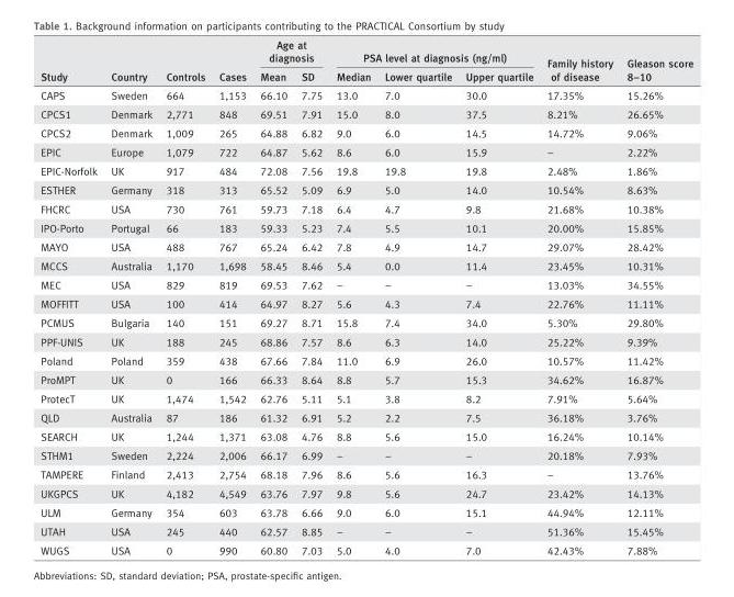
<table><thead><tr><td rowspan="2">Study</td><td rowspan="2">Country</td><td rowspan="2">Controls</td><td rowspan="2">Cases</td><td colspan="2">Age at diagnosis</td><td colspan="3">PSA level at diagnosis (ng/ml)</td><td rowspan="2">Family history of disease</td><td rowspan="2">Gleason score 8–10</td></tr><tr><td>Mean</td><td>SD</td><td>Median</td><td>Lower quartile</td><td>Upper quartile</td></tr></thead><tbody><tr><td>CAPS</td><td>Sweden</td><td>664</td><td>1,153</td><td>66.10</td><td>7.75</td><td>13.0</td><td>7.0</td><td>30.0</td><td>17.35%</td><td>15.26%</td></tr><tr><td>CPCS1</td><td>Denmark</td><td>2,771</td><td>848</td><td>69.51</td><td>7.91</td><td>15.0</td><td>8.0</td><td>37.5</td><td>8.21%</td><td>26.65%</td></tr><tr><td>CPCS2</td><td>Denmark</td><td>1,009</td><td>265</td><td>64.88</td><td>6.82</td><td>9.0</td><td>6.0</td><td>14.5</td><td>14.72%</td><td>9.06%</td></tr><tr><td>EPIC</td><td>Europe</td><td>1,079</td><td>722</td><td>64.87</td><td>5.62</td><td>8.6</td><td>6.0</td><td>15.9</td><td>–</td><td>2.22%</td></tr><tr><td>EPIC-Norfolk</td><td>UK</td><td>917</td><td>484</td><td>72.08</td><td>7.56</td><td>19.8</td><td>19.8</td><td>19.8</td><td>2.48%</td><td>1.86%</td></tr><tr><td>ESTHER</td><td>Germany</td><td>318</td><td>313</td><td>65.52</td><td>5.09</td><td>6.9</td><td>5.0</td><td>14.0</td><td>10.54%</td><td>8.63%</td></tr><tr><td>FHCRC</td><td>USA</td><td>730</td><td>761</td><td>59.73</td><td>7.18</td><td>6.4</td><td>4.7</td><td>9.8</td><td>21.68%</td><td>10.38%</td></tr><tr><td>IPO-Porto</td><td>Portugal</td><td>66</td><td>183</td><td>59.33</td><td>5.23</td><td>7.4</td><td>5.5</td><td>10.1</td><td>20.00%</td><td>15.85%</td></tr><tr><td>MAYO</td><td>USA</td><td>488</td><td>767</td><td>65.24</td><td>6.42</td><td>7.8</td><td>4.9</td><td>14.7</td><td>29.07%</td><td>28.42%</td></tr><tr><td>MCCS</td><td>Australia</td><td>1,170</td><td>1,698</td><td>58.45</td><td>8.46</td><td>5.4</td><td>0.0</td><td>11.4</td><td>23.45%</td><td>10.31%</td></tr><tr><td>MEC</td><td>USA</td><td>829</td><td>819</td><td>69.53</td><td>7.62</td><td>–</td><td>–</td><td>–</td><td>13.03%</td><td>34.55%</td></tr><tr><td>MOFFITT</td><td>USA</td><td>100</td><td>414</td><td>64.97</td><td>8.27</td><td>5.6</td><td>4.3</td><td>7.4</td><td>22.76%</td><td>11.11%</td></tr><tr><td>PCMUS</td><td>Bulgaria</td><td>140</td><td>151</td><td>69.27</td><td>8.71</td><td>15.8</td><td>7.4</td><td>34.0</td><td>5.30%</td><td>29.80%</td></tr><tr><td>PPF-UNIS</td><td>UK</td><td>188</td><td>245</td><td>68.86</td><td>7.57</td><td>8.6</td><td>6.3</td><td>14.0</td><td>25.22%</td><td>9.39%</td></tr><tr><td>Poland</td><td>Poland</td><td>359</td><td>438</td><td>67.66</td><td>7.84</td><td>11.0</td><td>6.9</td><td>26.0</td><td>10.57%</td><td>11.42%</td></tr><tr><td>ProMPT</td><td>UK</td><td>0</td><td>166</td><td>66.33</td><td>8.64</td><td>8.8</td><td>5.7</td><td>15.3</td><td>34.62%</td><td>16.87%</td></tr><tr><td>ProtecT</td><td>UK</td><td>1,474</td><td>1,542</td><td>62.76</td><td>5.11</td><td>5.1</td><td>3.8</td><td>8.2</td><td>7.91%</td><td>5.64%</td></tr><tr><td>QLD</td><td>Australia</td><td>87</td><td>186</td><td>61.32</td><td>6.91</td><td>5.2</td><td>2.2</td><td>7.5</td><td>36.18%</td><td>3.76%</td></tr><tr><td>SEARCH</td><td>UK</td><td>1,244</td><td>1,371</td><td>63.08</td><td>4.76</td><td>8.8</td><td>5.6</td><td>15.0</td><td>16.24%</td><td>10.14%</td></tr><tr><td>STHM1</td><td>Sweden</td><td>2,224</td><td>2,006</td><td>66.17</td><td>6.99</td><td>–</td><td>–</td><td>–</td><td>20.18%</td><td>7.93%</td></tr><tr><td>TAMPERE</td><td>Finland</td><td>2,413</td><td>2,754</td><td>68.18</td><td>7.96</td><td>8.6</td><td>5.6</td><td>16.3</td><td>–</td><td>13.76%</td></tr><tr><td>UKGPCS</td><td>UK</td><td>4,182</td><td>4,549</td><td>63.76</td><td>7.97</td><td>9.8</td><td>5.6</td><td>24.7</td><td>23.42%</td><td>14.13%</td></tr><tr><td>ULM</td><td>Germany</td><td>354</td><td>603</td><td>63.78</td><td>6.66</td><td>9.0</td><td>6.0</td><td>15.1</td><td>44.94%</td><td>12.11%</td></tr><tr><td>UTAH</td><td>USA</td><td>245</td><td>440</td><td>62.57</td><td>8.85</td><td>–</td><td>–</td><td>–</td><td>51.36%</td><td>15.45%</td></tr><tr><td>WUGS</td><td>USA</td><td>0</td><td>990</td><td>60.80</td><td>7.03</td><td>5.0</td><td>4.0</td><td>7.0</td><td>42.43%</td><td>7.88%</td></tr></tbody></table>